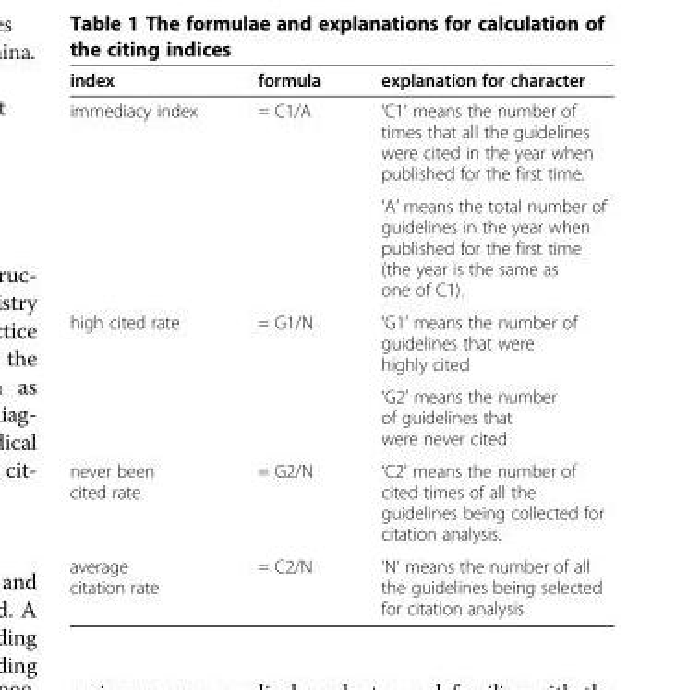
<table><thead><tr><td>index</td><td>formula</td><td>explanation for character</td></tr></thead><tbody><tr><td rowspan="2">immediacy index</td><td rowspan="2">= C1/A</td><td>‘C1’ means the number of times that all the guidelines were cited in the year when published for the first time.</td></tr><tr><td>‘A’ means the total number of guidelines in the year when published for the first time (the year is the same as one of C1).</td></tr><tr><td rowspan="2">high cited rate</td><td rowspan="2">= G1/N</td><td>‘G1’ means the number of guidelines that were highly cited</td></tr><tr><td>‘G2’ means the number of guidelines that were never cited</td></tr><tr><td>never been cited rate</td><td>= G2/N</td><td>‘C2’ means the number of cited times of all the guidelines being collected for citation analysis.</td></tr><tr><td>average citation rate</td><td>= C2/N</td><td>‘N’ means the number of all the guidelines being selected for citation analysis</td></tr></tbody></table>